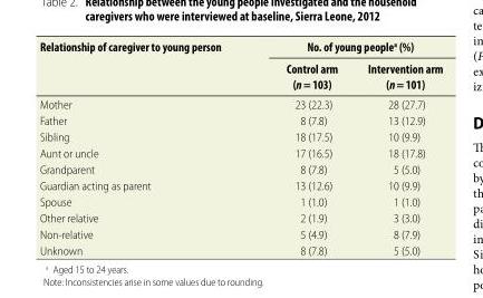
<table><thead><tr><td rowspan="2">Relationship of caregiver to young person</td><td colspan="2">No. of young people<sup>a</sup> (%)</td></tr><tr><td>Control arm (n = 103)</td><td>Intervention arm (n = 101)</td></tr></thead><tbody><tr><td>Mother</td><td>23 (22.3)</td><td>28 (27.7)</td></tr><tr><td>Father</td><td>8 (7.8)</td><td>13 (12.9)</td></tr><tr><td>Sibling</td><td>18 (17.5)</td><td>10 (9.9)</td></tr><tr><td>Aunt or uncle</td><td>17 (16.5)</td><td>18 (17.8)</td></tr><tr><td>Grandparent</td><td>8 (7.8)</td><td>5 (5.0)</td></tr><tr><td>Guardian acting as parent</td><td>13 (12.6)</td><td>10 (9.9)</td></tr><tr><td>Spouse</td><td>1 (1.0)</td><td>1 (1.0)</td></tr><tr><td>Other relative</td><td>2 (1.9)</td><td>3 (3.0)</td></tr><tr><td>Non-relative</td><td>5 (4.9)</td><td>8 (7.9)</td></tr><tr><td>Unknown</td><td>8 (7.8)</td><td>5 (5.0)</td></tr></tbody></table>